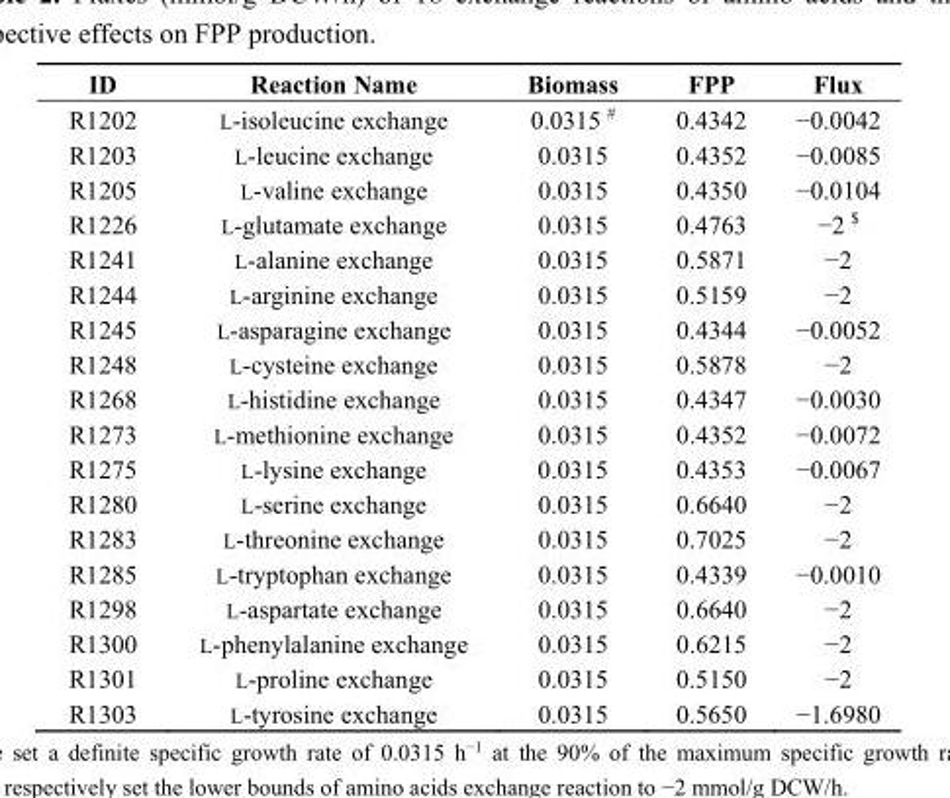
<table><thead><tr><td>ID</td><td>Reaction Name</td><td>Biomass</td><td>FPP</td><td>Flux</td></tr></thead><tbody><tr><td>R1202</td><td>L-isoleucine exchange</td><td>0.0315 <sup>#</sup></td><td>0.4342</td><td>−0.0042</td></tr><tr><td>R1203</td><td>L-leucine exchange</td><td>0.0315</td><td>0.4352</td><td>−0.0085</td></tr><tr><td>R1205</td><td>L-valine exchange</td><td>0.0315</td><td>0.4350</td><td>−0.0104</td></tr><tr><td>R1226</td><td>L-glutamate exchange</td><td>0.0315</td><td>0.4763</td><td>−2 <sup>$</sup></td></tr><tr><td>R1241</td><td>L-alanine exchange</td><td>0.0315</td><td>0.5871</td><td>−2</td></tr><tr><td>R1244</td><td>L-arginine exchange</td><td>0.0315</td><td>0.5159</td><td>−2</td></tr><tr><td>R1245</td><td>L-asparagine exchange</td><td>0.0315</td><td>0.4344</td><td>−0.0052</td></tr><tr><td>R1248</td><td>L-cysteine exchange</td><td>0.0315</td><td>0.5878</td><td>−2</td></tr><tr><td>R1268</td><td>L-histidine exchange</td><td>0.0315</td><td>0.4347</td><td>−0.0030</td></tr><tr><td>R1273</td><td>L-methionine exchange</td><td>0.0315</td><td>0.4352</td><td>−0.0072</td></tr><tr><td>R1275</td><td>L-lysine exchange</td><td>0.0315</td><td>0.4353</td><td>−0.0067</td></tr><tr><td>R1280</td><td>L-serine exchange</td><td>0.0315</td><td>0.6640</td><td>−2</td></tr><tr><td>R1283</td><td>L-threonine exchange</td><td>0.0315</td><td>0.7025</td><td>−2</td></tr><tr><td>R1285</td><td>L-tryptophan exchange</td><td>0.0315</td><td>0.4339</td><td>−0.0010</td></tr><tr><td>R1298</td><td>L-aspartate exchange</td><td>0.0315</td><td>0.6640</td><td>−2</td></tr><tr><td>R1300</td><td>L-phenylalanine exchange</td><td>0.0315</td><td>0.6215</td><td>−2</td></tr><tr><td>R1301</td><td>L-proline exchange</td><td>0.0315</td><td>0.5150</td><td>−2</td></tr><tr><td>R1303</td><td>L-tyrosine exchange</td><td>0.0315</td><td>0.5650</td><td>−1.6980</td></tr></tbody></table>